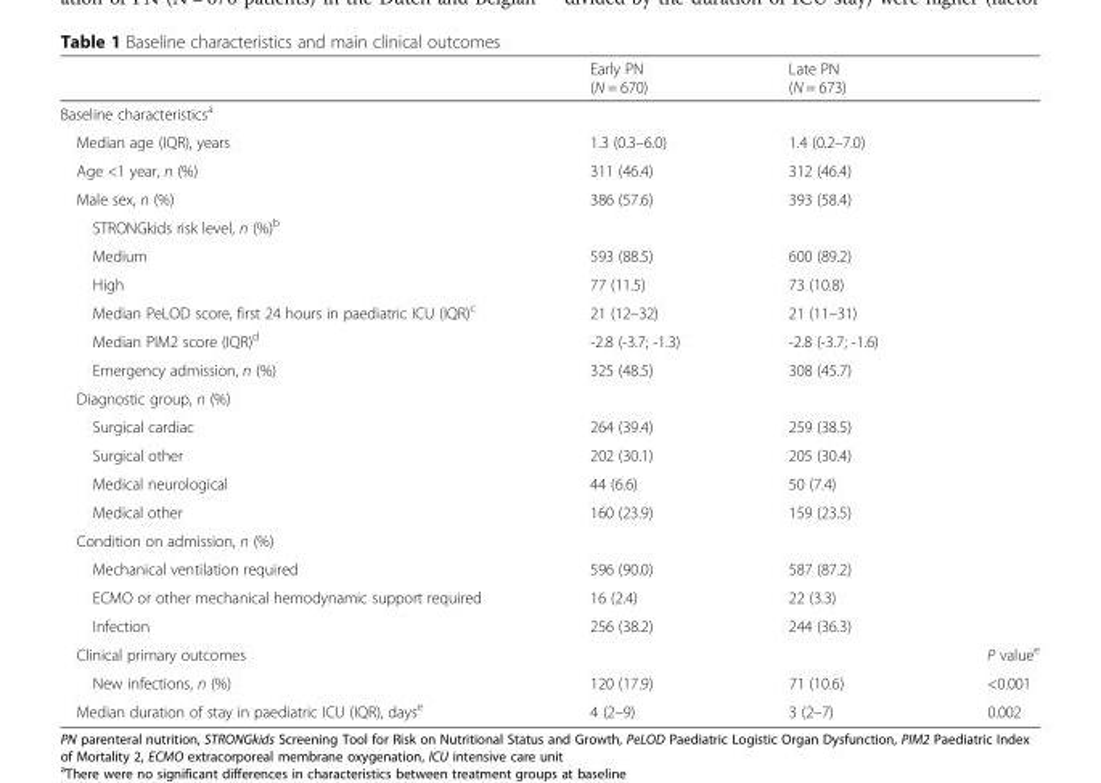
<table><thead><tr><td></td><td>Early PN (N = 670)</td><td>Late PN (N = 673)</td><td></td></tr></thead><tbody><tr><td colspan="4">Baseline characteristics<sup>a</sup></td></tr><tr><td>Median age (IQR), years</td><td>1.3 (0.3–6.0)</td><td>1.4 (0.2–7.0)</td><td></td></tr><tr><td>Age &lt;1 year, n (%)</td><td>311 (46.4)</td><td>312 (46.4)</td><td></td></tr><tr><td>Male sex, n (%)</td><td>386 (57.6)</td><td>393 (58.4)</td><td></td></tr><tr><td colspan="4">STRONGkids risk level, n (%)<sup>b</sup></td></tr><tr><td>Medium</td><td>593 (88.5)</td><td>600 (89.2)</td><td></td></tr><tr><td>High</td><td>77 (11.5)</td><td>73 (10.8)</td><td></td></tr><tr><td>Median PeLOD score, first 24 hours in paediatric ICU (IQR)<sup>c</sup></td><td>21 (12–32)</td><td>21 (11–31)</td><td></td></tr><tr><td>Median PIM2 score (IQR)<sup>d</sup></td><td>-2.8 (-3.7; -1.3)</td><td>-2.8 (-3.7; -1.6)</td><td></td></tr><tr><td>Emergency admission, n (%)</td><td>325 (48.5)</td><td>308 (45.7)</td><td></td></tr><tr><td colspan="4">Diagnostic group, n (%)</td></tr><tr><td>Surgical cardiac</td><td>264 (39.4)</td><td>259 (38.5)</td><td></td></tr><tr><td>Surgical other</td><td>202 (30.1)</td><td>205 (30.4)</td><td></td></tr><tr><td>Medical neurological</td><td>44 (6.6)</td><td>50 (7.4)</td><td></td></tr><tr><td>Medical other</td><td>160 (23.9)</td><td>159 (23.5)</td><td></td></tr><tr><td colspan="4">Condition on admission, n (%)</td></tr><tr><td>Mechanical ventilation required</td><td>596 (90.0)</td><td>587 (87.2)</td><td></td></tr><tr><td>ECMO or other mechanical hemodynamic support required</td><td>16 (2.4)</td><td>22 (3.3)</td><td></td></tr><tr><td>Infection</td><td>256 (38.2)</td><td>244 (36.3)</td><td></td></tr><tr><td>Clinical primary outcomes</td><td></td><td></td><td>P value<sup>e</sup></td></tr><tr><td>New infections, n (%)</td><td>120 (17.9)</td><td>71 (10.6)</td><td>&lt;0.001</td></tr><tr><td>Median duration of stay in paediatric ICU (IQR), days<sup>e</sup></td><td>4 (2–9)</td><td>3 (2–7)</td><td>0.002</td></tr></tbody></table>